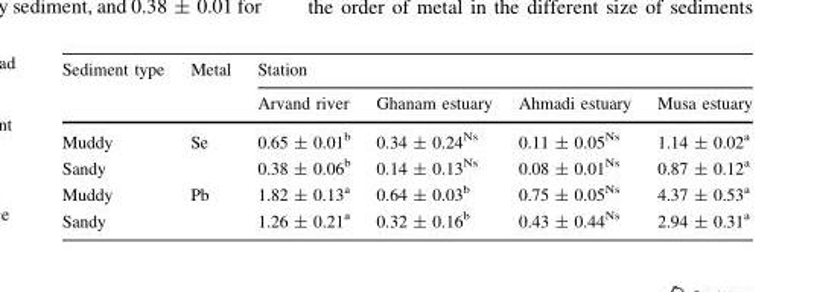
<table><thead><tr><td rowspan="2">Sediment type</td><td rowspan="2">Metal</td><td colspan="4">Station</td></tr><tr><td>Arvand river</td><td>Ghanam estuary</td><td>Ahmadi estuary</td><td>Musa estuary</td></tr></thead><tbody><tr><td>Muddy</td><td>Se</td><td>0.65 ± 0.01<sup>b</sup></td><td>0.34 ± 0.24<sup>Ns</sup></td><td>0.11 ± 0.05<sup>Ns</sup></td><td>1.14 ± 0.02<sup>a</sup></td></tr><tr><td>Sandy</td><td></td><td>0.38 ± 0.06<sup>b</sup></td><td>0.14 ± 0.13<sup>Ns</sup></td><td>0.08 ± 0.01<sup>Ns</sup></td><td>0.87 ± 0.12<sup>a</sup></td></tr><tr><td>Muddy</td><td>Pb</td><td>1.82 ± 0.13<sup>a</sup></td><td>0.64 ± 0.03<sup>b</sup></td><td>0.75 ± 0.05<sup>Ns</sup></td><td>4.37 ± 0.53<sup>a</sup></td></tr><tr><td>Sandy</td><td></td><td>1.26 ± 0.21<sup>a</sup></td><td>0.32 ± 0.16<sup>b</sup></td><td>0.43 ± 0.44<sup>Ns</sup></td><td>2.94 ± 0.31<sup>a</sup></td></tr></tbody></table>